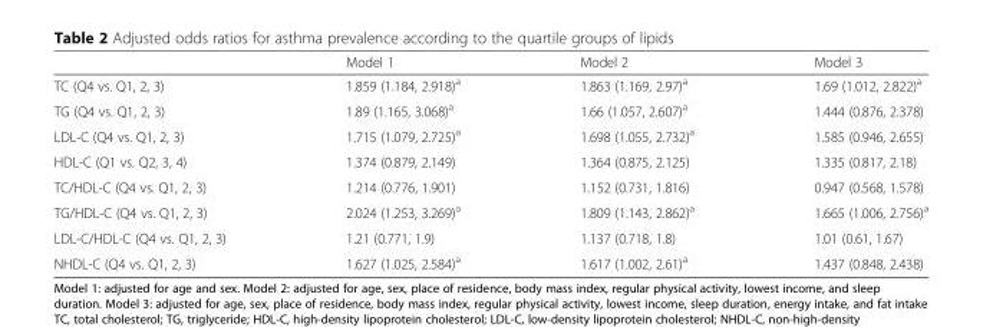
<table><thead><tr><td></td><td>Model 1</td><td>Model 2</td><td>Model 3</td></tr></thead><tbody><tr><td>TC (Q4 vs. Q1, 2, 3)</td><td>1.859 (1.184, 2.918)<sup>a</sup></td><td>1.863 (1.169, 2.97)<sup>a</sup></td><td>1.69 (1.012, 2.822)<sup>a</sup></td></tr><tr><td>TG (Q4 vs. Q1, 2, 3)</td><td>1.89 (1.165, 3.068)<sup>a</sup></td><td>1.66 (1.057, 2.607)<sup>a</sup></td><td>1.444 (0.876, 2.378)</td></tr><tr><td>LDL-C (Q4 vs. Q1, 2, 3)</td><td>1.715 (1.079, 2.725)<sup>a</sup></td><td>1.698 (1.055, 2.732)<sup>a</sup></td><td>1.585 (0.946, 2.655)</td></tr><tr><td>HDL-C (Q1 vs. Q2, 3, 4)</td><td>1.374 (0.879, 2.149)</td><td>1.364 (0.875, 2.125)</td><td>1.335 (0.817, 2.18)</td></tr><tr><td>TC/HDL-C (Q4 vs. Q1, 2, 3)</td><td>1.214 (0.776, 1.901)</td><td>1.152 (0.731, 1.816)</td><td>0.947 (0.568, 1.578)</td></tr><tr><td>TG/HDL-C (Q4 vs. Q1, 2, 3)</td><td>2.024 (1.253, 3.269)<sup>a</sup></td><td>1.809 (1.143, 2.862)<sup>a</sup></td><td>1.665 (1.006, 2.756)<sup>a</sup></td></tr><tr><td>LDL-C/HDL-C (Q4 vs. Q1, 2, 3)</td><td>1.21 (0.771, 1.9)</td><td>1.137 (0.718, 1.8)</td><td>1.01 (0.61, 1.67)</td></tr><tr><td>NHDL-C (Q4 vs. Q1, 2, 3)</td><td>1.627 (1.025, 2.584)<sup>a</sup></td><td>1.617 (1.002, 2.61)<sup>a</sup></td><td>1.437 (0.848, 2.438)</td></tr></tbody></table>